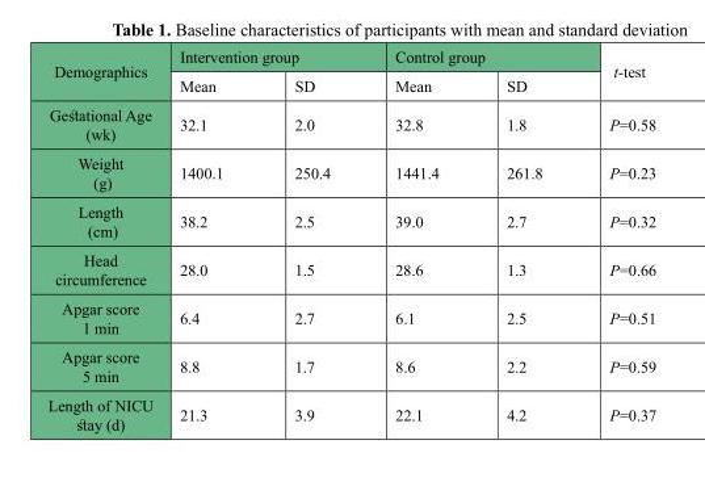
<table><thead><tr><td rowspan="2">Demographics</td><td colspan="2">Intervention group</td><td colspan="2">Control group</td><td rowspan="2">t-test</td></tr><tr><td>Mean</td><td>SD</td><td>Mean</td><td>SD</td></tr></thead><tbody><tr><td>Gestational Age (wk)</td><td>32.1</td><td>2.0</td><td>32.8</td><td>1.8</td><td>P=0.58</td></tr><tr><td>Weight (g)</td><td>1400.1</td><td>250.4</td><td>1441.4</td><td>261.8</td><td>P=0.23</td></tr><tr><td>Length (cm)</td><td>38.2</td><td>2.5</td><td>39.0</td><td>2.7</td><td>P=0.32</td></tr><tr><td>Head circumference</td><td>28.0</td><td>1.5</td><td>28.6</td><td>1.3</td><td>P=0.66</td></tr><tr><td>Apgar score 1 min</td><td>6.4</td><td>2.7</td><td>6.1</td><td>2.5</td><td>P=0.51</td></tr><tr><td>Apgar score 5 min</td><td>8.8</td><td>1.7</td><td>8.6</td><td>2.2</td><td>P=0.59</td></tr><tr><td>Length of NICU stay (d)</td><td>21.3</td><td>3.9</td><td>22.1</td><td>4.2</td><td>P=0.37</td></tr></tbody></table>